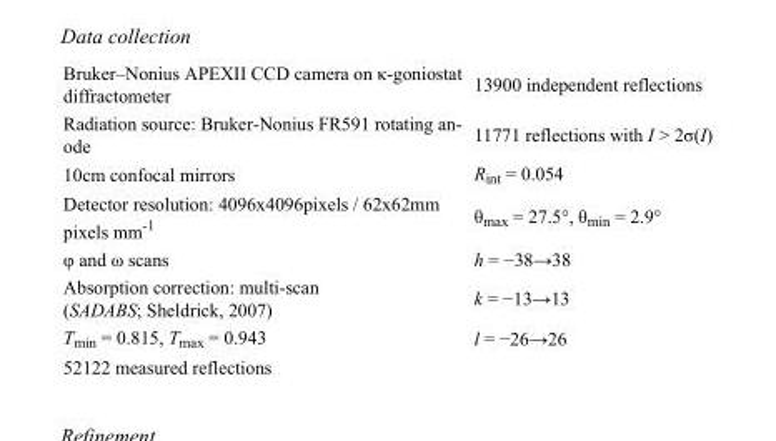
<table><tbody><tr><td>Bruker–Nonius APEXII CCD camera on κ-goniostat diffractometer</td><td>13900 independent reflections</td></tr><tr><td>Radiation source: Bruker-Nonius FR591 rotating an- ode</td><td>11771 reflections with I &gt; 2σ(I)</td></tr><tr><td>10cm confocal mirrors</td><td>R<sub>int</sub> = 0.054</td></tr><tr><td>Detector resolution: 4096x4096pixels / 62x62mm pixels mm<sup>-1</sup></td><td>θ<sub>max</sub> = 27.5°, θ<sub>min</sub> = 2.9°</td></tr><tr><td>φ and ω scans</td><td>h = −38→38</td></tr><tr><td>Absorption correction: multi-scan (SADABS; Sheldrick, 2007)</td><td>k = −13→13</td></tr><tr><td>T<sub>min</sub> = 0.815, T<sub>max</sub> = 0.943</td><td>l = −26→26</td></tr><tr><td>52122 measured reflections</td><td></td></tr></tbody></table>